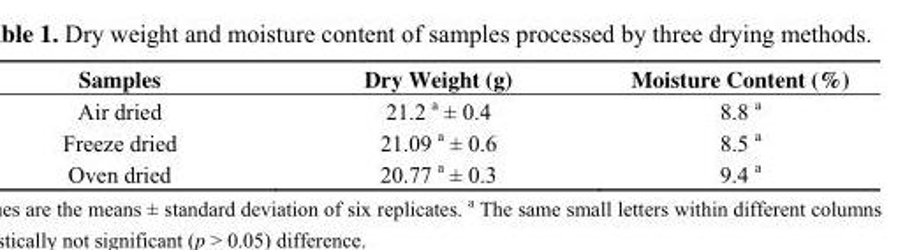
<table><thead><tr><td>Samples</td><td>Dry Weight (g)</td><td>Moisture Content (%)</td></tr></thead><tbody><tr><td>Air dried</td><td>21.2 <sup>a</sup> ± 0.4</td><td>8.8 <sup>a</sup></td></tr><tr><td>Freeze dried</td><td>21.09 <sup>a</sup> ± 0.6</td><td>8.5 <sup>a</sup></td></tr><tr><td>Oven dried</td><td>20.77 <sup>a</sup> ± 0.3</td><td>9.4 <sup>a</sup></td></tr></tbody></table>